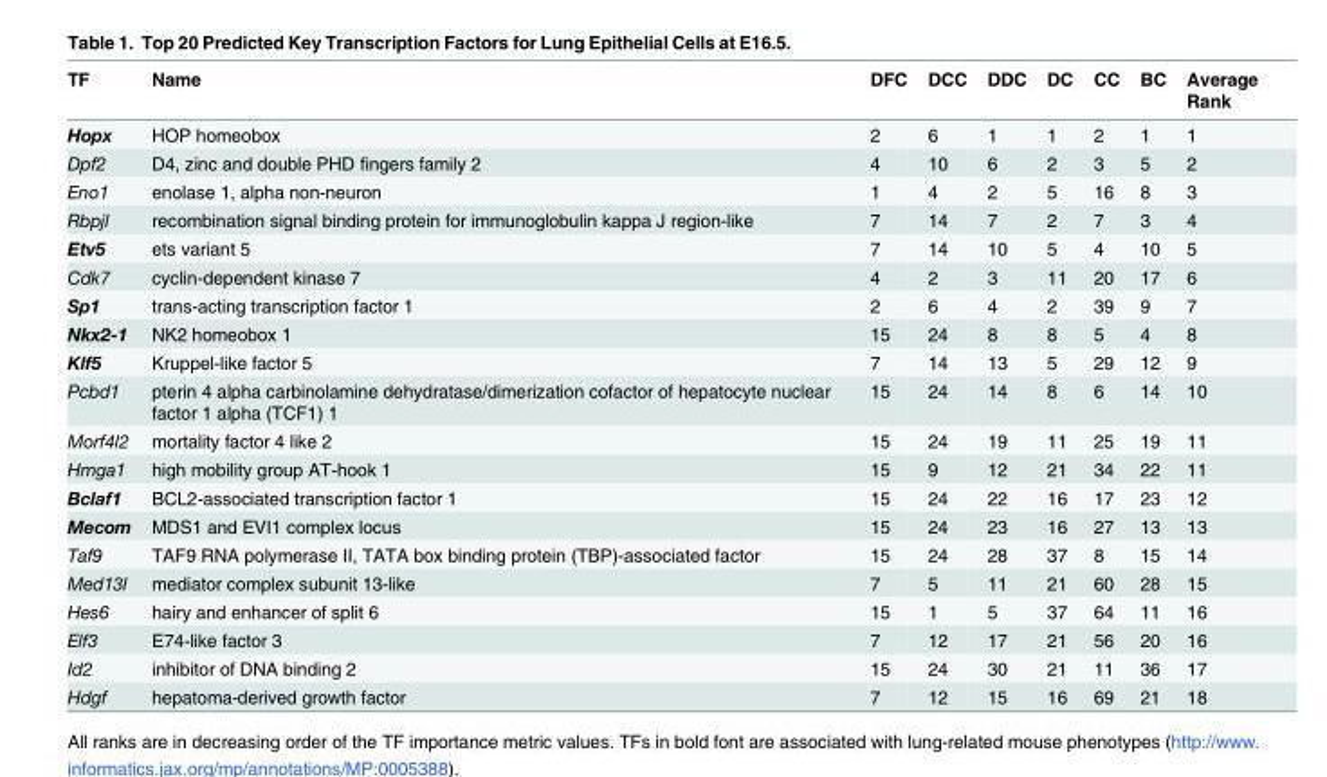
<table><thead><tr><td>TF</td><td>Name</td><td>DFC</td><td>DCC</td><td>DDC</td><td>DC</td><td>CC</td><td>BC</td><td>Average Rank</td></tr></thead><tbody><tr><td>Hopx</td><td>HOP homeobox</td><td>2</td><td>6</td><td>1</td><td>1</td><td>2</td><td>1</td><td>1</td></tr><tr><td>Dpf2</td><td>D4, zinc and double PHD fingers family 2</td><td>4</td><td>10</td><td>6</td><td>2</td><td>3</td><td>5</td><td>2</td></tr><tr><td>Eno1</td><td>enolase 1, alpha non-neuron</td><td>1</td><td>4</td><td>2</td><td>5</td><td>16</td><td>8</td><td>3</td></tr><tr><td>Rbpjl</td><td>recombination signal binding protein for immunoglobulin kappa J region-like</td><td>7</td><td>14</td><td>7</td><td>2</td><td>7</td><td>3</td><td>4</td></tr><tr><td>Etv5</td><td>ets variant 5</td><td>7</td><td>14</td><td>10</td><td>5</td><td>4</td><td>10</td><td>5</td></tr><tr><td>Cdk7</td><td>cyclin-dependent kinase 7</td><td>4</td><td>2</td><td>3</td><td>11</td><td>20</td><td>17</td><td>6</td></tr><tr><td>Sp1</td><td>trans-acting transcription factor 1</td><td>2</td><td>6</td><td>4</td><td>2</td><td>39</td><td>9</td><td>7</td></tr><tr><td>Nkx2-1</td><td>NK2 homeobox 1</td><td>15</td><td>24</td><td>8</td><td>8</td><td>5</td><td>4</td><td>8</td></tr><tr><td>Klf5</td><td>Kruppel-like factor 5</td><td>7</td><td>14</td><td>13</td><td>5</td><td>29</td><td>12</td><td>9</td></tr><tr><td>Pcbd1</td><td>pterin 4 alpha carbinolamine dehydratase/dimerization cofactor of hepatocyte nuclear factor 1 alpha (TCF1) 1</td><td>15</td><td>24</td><td>14</td><td>8</td><td>6</td><td>14</td><td>10</td></tr><tr><td>Morf4l2</td><td>mortality factor 4 like 2</td><td>15</td><td>24</td><td>19</td><td>11</td><td>25</td><td>19</td><td>11</td></tr><tr><td>Hmga1</td><td>high mobility group AT-hook 1</td><td>15</td><td>9</td><td>12</td><td>21</td><td>34</td><td>22</td><td>11</td></tr><tr><td>Bclaf1</td><td>BCL2-associated transcription factor 1</td><td>15</td><td>24</td><td>22</td><td>16</td><td>17</td><td>23</td><td>12</td></tr><tr><td>Mecom</td><td>MDS1 and EVI1 complex locus</td><td>15</td><td>24</td><td>23</td><td>16</td><td>27</td><td>13</td><td>13</td></tr><tr><td>Taf9</td><td>TAF9 RNA polymerase II, TATA box binding protein (TBP)-associated factor</td><td>15</td><td>24</td><td>28</td><td>37</td><td>8</td><td>15</td><td>14</td></tr><tr><td>Med13l</td><td>mediator complex subunit 13-like</td><td>7</td><td>5</td><td>11</td><td>21</td><td>60</td><td>28</td><td>15</td></tr><tr><td>Hes6</td><td>hairy and enhancer of split 6</td><td>15</td><td>1</td><td>5</td><td>37</td><td>64</td><td>11</td><td>16</td></tr><tr><td>Elf3</td><td>E74-like factor 3</td><td>7</td><td>12</td><td>17</td><td>21</td><td>56</td><td>20</td><td>16</td></tr><tr><td>Id2</td><td>inhibitor of DNA binding 2</td><td>15</td><td>24</td><td>30</td><td>21</td><td>11</td><td>36</td><td>17</td></tr><tr><td>Hdgf</td><td>hepatoma-derived growth factor</td><td>7</td><td>12</td><td>15</td><td>16</td><td>69</td><td>21</td><td>18</td></tr></tbody></table>